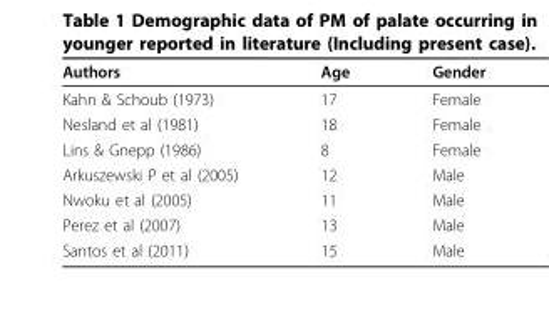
<table><thead><tr><td>Authors</td><td>Age</td><td>Gender</td></tr></thead><tbody><tr><td>Kahn &amp; Schoub (1973)</td><td>17</td><td>Female</td></tr><tr><td>Nesland et al (1981)</td><td>18</td><td>Female</td></tr><tr><td>Lins &amp; Gnepp (1986)</td><td>8</td><td>Female</td></tr><tr><td>Arkuszewski P et al (2005)</td><td>12</td><td>Male</td></tr><tr><td>Nwoku et al (2005)</td><td>11</td><td>Male</td></tr><tr><td>Perez et al (2007)</td><td>13</td><td>Male</td></tr><tr><td>Santos et al (2011)</td><td>15</td><td>Male</td></tr></tbody></table>